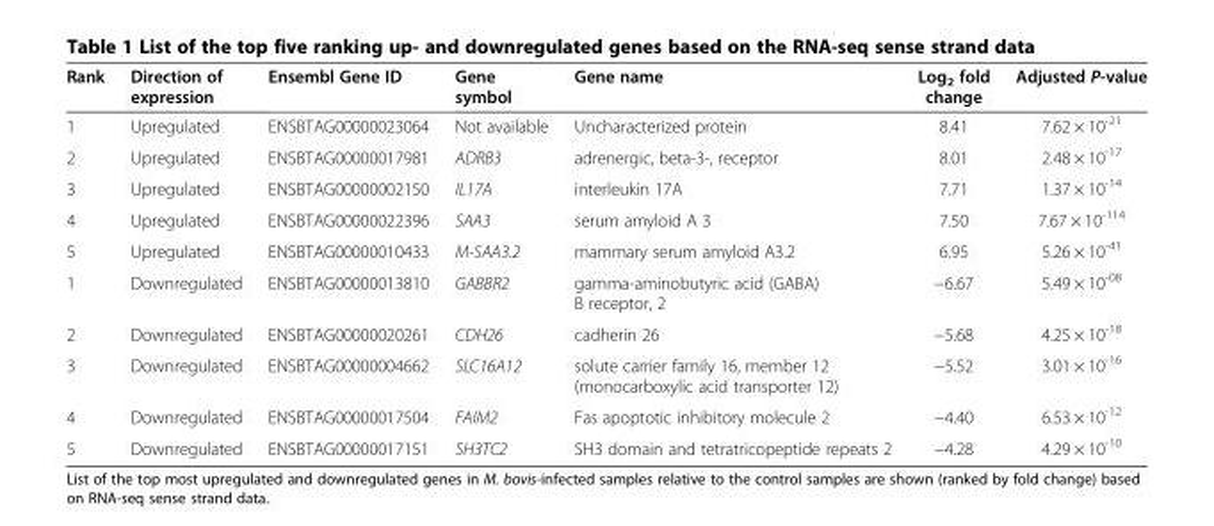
<table><thead><tr><td>Rank</td><td>Direction of expression</td><td>Ensembl Gene ID</td><td>Gene symbol</td><td>Gene name</td><td>Log<sub>2</sub> fold change</td><td>Adjusted P-value</td></tr></thead><tbody><tr><td>1</td><td>Upregulated</td><td>ENSBTAG00000023064</td><td>Not available</td><td>Uncharacterized protein</td><td>8.41</td><td>7.62 × 10<sup>-21</sup></td></tr><tr><td>2</td><td>Upregulated</td><td>ENSBTAG00000017981</td><td>ADRB3</td><td>adrenergic, beta-3-, receptor</td><td>8.01</td><td>2.48 × 10<sup>-17</sup></td></tr><tr><td>3</td><td>Upregulated</td><td>ENSBTAG00000002150</td><td>IL17A</td><td>interleukin 17A</td><td>7.71</td><td>1.37 × 10<sup>-14</sup></td></tr><tr><td>4</td><td>Upregulated</td><td>ENSBTAG00000022396</td><td>SAA3</td><td>serum amyloid A 3</td><td>7.50</td><td>7.67 × 10<sup>-114</sup></td></tr><tr><td>5</td><td>Upregulated</td><td>ENSBTAG00000010433</td><td>M-SAA3.2</td><td>mammary serum amyloid A3.2</td><td>6.95</td><td>5.26 × 10<sup>-41</sup></td></tr><tr><td>1</td><td>Downregulated</td><td>ENSBTAG00000013810</td><td>GABBR2</td><td>gamma-aminobutyric acid (GABA) B receptor, 2</td><td>−6.67</td><td>5.49 × 10<sup>-08</sup></td></tr><tr><td>2</td><td>Downregulated</td><td>ENSBTAG00000020261</td><td>CDH26</td><td>cadherin 26</td><td>−5.68</td><td>4.25 × 10<sup>-18</sup></td></tr><tr><td>3</td><td>Downregulated</td><td>ENSBTAG00000004662</td><td>SLC16A12</td><td>solute carrier family 16, member 12 (monocarboxylic acid transporter 12)</td><td>−5.52</td><td>3.01 × 10<sup>-16</sup></td></tr><tr><td>4</td><td>Downregulated</td><td>ENSBTAG00000017504</td><td>FAIM2</td><td>Fas apoptotic inhibitory molecule 2</td><td>−4.40</td><td>6.53 × 10<sup>-12</sup></td></tr><tr><td>5</td><td>Downregulated</td><td>ENSBTAG00000017151</td><td>SH3TC2</td><td>SH3 domain and tetratricopeptide repeats 2</td><td>−4.28</td><td>4.29 × 10<sup>-10</sup></td></tr></tbody></table>